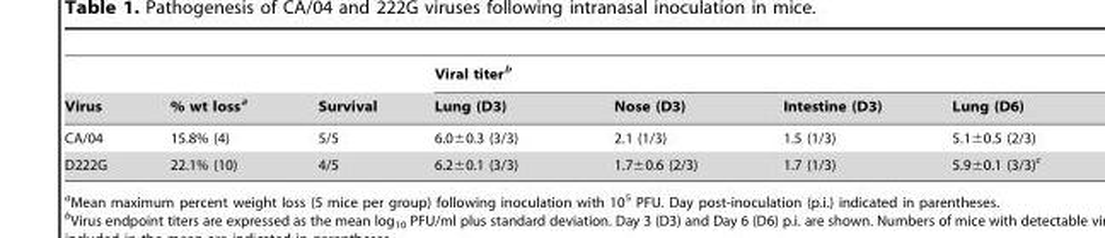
<table><thead><tr><td rowspan="2">Virus</td><td rowspan="2">% wt loss<sup>a</sup></td><td rowspan="2">Survival</td><td colspan="4">Viral titer<sup>b</sup></td></tr><tr><td>Lung (D3)</td><td>Nose (D3)</td><td>Intestine (D3)</td><td>Lung (D6)</td></tr></thead><tbody><tr><td>CA/04</td><td>15.8% (4)</td><td>5/5</td><td>6.0±0.3 (3/3)</td><td>2.1 (1/3)</td><td>1.5 (1/3)</td><td>5.1±0.5 (2/3)</td></tr><tr><td>D222G</td><td>22.1% (10)</td><td>4/5</td><td>6.2±0.1 (3/3)</td><td>1.7±0.6 (2/3)</td><td>1.7 (1/3)</td><td>5.9±0.1 (3/3)<sup>c</sup></td></tr></tbody></table>